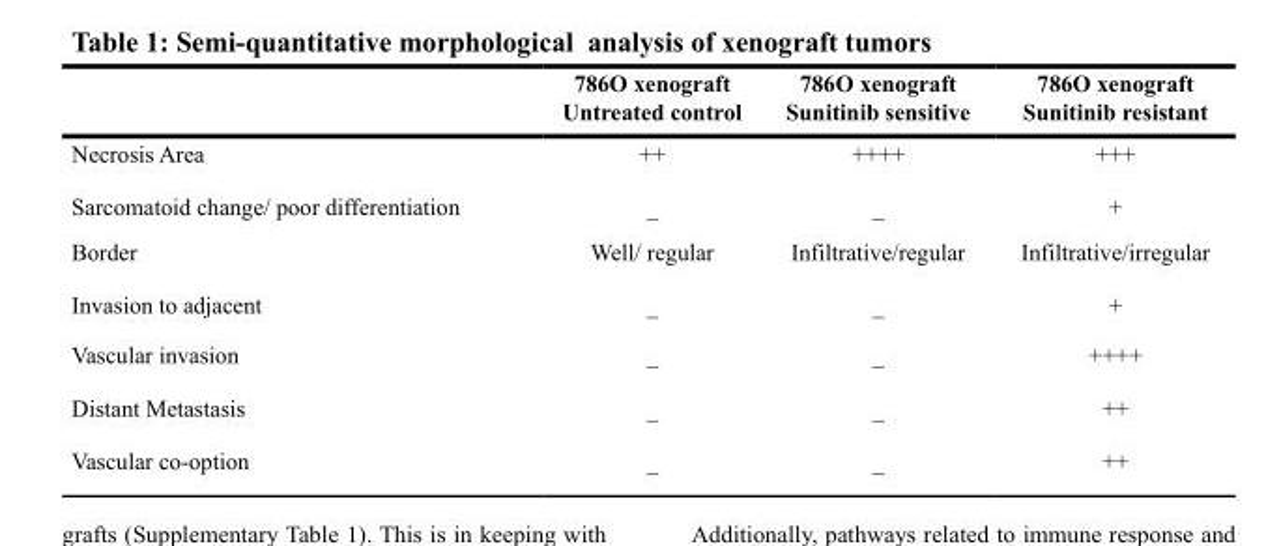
<table><thead><tr><td></td><td>786O xenograft Untreated control</td><td>786O xenograft Sunitinib sensitive</td><td>786O xenograft Sunitinib resistant</td></tr></thead><tbody><tr><td>Necrosis Area</td><td>++</td><td>++++</td><td>+++</td></tr><tr><td>Sarcomatoid change/ poor differentiation</td><td>–</td><td>–</td><td>+</td></tr><tr><td>Border</td><td>Well/ regular</td><td>Infiltrative/regular</td><td>Infiltrative/irregular</td></tr><tr><td>Invasion to adjacent</td><td>–</td><td>–</td><td>+</td></tr><tr><td>Vascular invasion</td><td>–</td><td>–</td><td>++++</td></tr><tr><td>Distant Metastasis</td><td>–</td><td>–</td><td>++</td></tr><tr><td>Vascular co-option</td><td>–</td><td>–</td><td>++</td></tr></tbody></table>